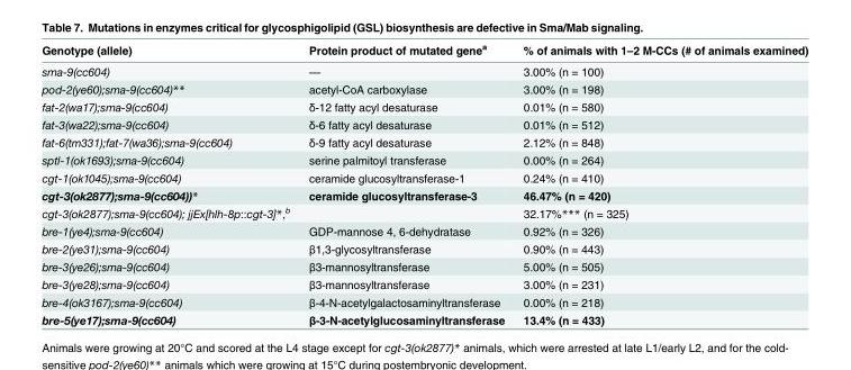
<table><thead><tr><td>Genotype (allele)</td><td>Protein product of mutated gene<sup>a</sup></td><td>% of animals with 1–2 M-CCs (# of animals examined)</td></tr></thead><tbody><tr><td>sma-9(cc604)</td><td>—</td><td>3.00% (n = 100)</td></tr><tr><td>pod-2(ye60);sma-9(cc604)**</td><td>acetyl-CoA carboxylase</td><td>3.00% (n = 198)</td></tr><tr><td>fat-2(wa17);sma-9(cc604)</td><td>δ-12 fatty acyl desaturase</td><td>0.01% (n = 580)</td></tr><tr><td>fat-3(wa22);sma-9(cc604)</td><td>δ-6 fatty acyl desaturase</td><td>0.01% (n = 512)</td></tr><tr><td>fat-6(tm331);fat-7(wa36);sma-9(cc604)</td><td>δ-9 fatty acyl desaturase</td><td>2.12% (n = 848)</td></tr><tr><td>sptl-1(ok1693);sma-9(cc604)</td><td>serine palmitoyl transferase</td><td>0.00% (n = 264)</td></tr><tr><td>cgt-1(ok1045);sma-9(cc604)</td><td>ceramide glucosyltransferase-1</td><td>0.24% (n = 410)</td></tr><tr><td>cgt-3(ok2877);sma-9(cc604))*</td><td>ceramide glucosyltransferase-3</td><td>46.47% (n = 420)</td></tr><tr><td>cgt-3(ok2877);sma-9(cc604); jjEx[hlh-8p::cgt-3]*,<sup>b</sup></td><td></td><td>32.17%*** (n = 325)</td></tr><tr><td>bre-1(ye4);sma-9(cc604)</td><td>GDP-mannose 4, 6-dehydratase</td><td>0.92% (n = 326)</td></tr><tr><td>bre-2(ye31);sma-9(cc604)</td><td>β1,3-glycosyltransferase</td><td>0.90% (n = 443)</td></tr><tr><td>bre-3(ye26);sma-9(cc604)</td><td>β3-mannosyltransferase</td><td>5.00% (n = 505)</td></tr><tr><td>bre-3(ye28);sma-9(cc604)</td><td>β3-mannosyltransferase</td><td>3.00% (n = 231)</td></tr><tr><td>bre-4(ok3167);sma-9(cc604)</td><td>β-4-N-acetylgalactosaminyltransferase</td><td>0.00% (n = 218)</td></tr><tr><td>bre-5(ye17);sma-9(cc604)</td><td>β-3-N-acetylglucosaminyltransferase</td><td>13.4% (n = 433)</td></tr></tbody></table>